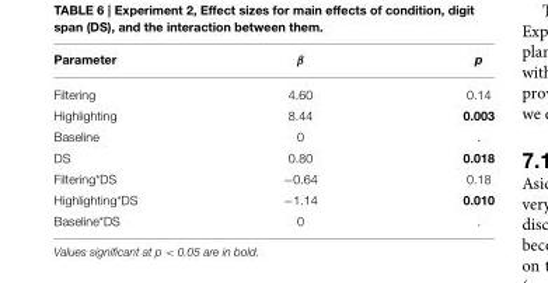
<table><thead><tr><td>Parameter</td><td>β</td><td>p</td></tr></thead><tbody><tr><td>Filtering</td><td>4.60</td><td>0.14</td></tr><tr><td>Highlighting</td><td>8.44</td><td>0.003</td></tr><tr><td>Baseline</td><td>0</td><td>.</td></tr><tr><td>DS</td><td>0.80</td><td>0.018</td></tr><tr><td>Filtering*DS</td><td>−0.64</td><td>0.18</td></tr><tr><td>Highlighting*DS</td><td>−1.14</td><td>0.010</td></tr><tr><td>Baseline*DS</td><td>0</td><td>.</td></tr></tbody></table>